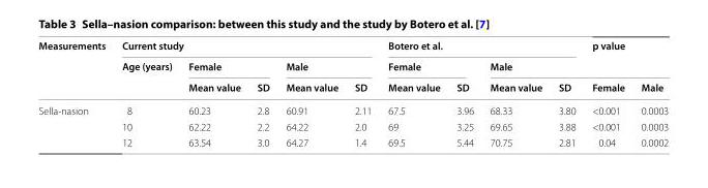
<table><thead><tr><td rowspan="3">Measurements</td><td colspan="5">Current study</td><td colspan="4">Botero et al.</td><td rowspan="2" colspan="2">p value</td></tr><tr><td rowspan="2">Age (years)</td><td colspan="2">Female</td><td colspan="2">Male</td><td colspan="2">Female</td><td colspan="2">Male</td></tr><tr><td>Mean value</td><td>SD</td><td>Mean value</td><td>SD</td><td>Mean value</td><td>SD</td><td>Mean value</td><td>SD</td><td>Female</td><td>Male</td></tr></thead><tbody><tr><td rowspan="3">Sella‑nasion</td><td>8</td><td>60.23</td><td>2.8</td><td>60.91</td><td>2.11</td><td>67.5</td><td>3.96</td><td>68.33</td><td>3.80</td><td>&lt;0.001</td><td>0.0003</td></tr><tr><td>10</td><td>62.22</td><td>2.2</td><td>64.22</td><td>2.0</td><td>69</td><td>3.25</td><td>69.65</td><td>3.88</td><td>&lt;0.001</td><td>0.0003</td></tr><tr><td>12</td><td>63.54</td><td>3.0</td><td>64.27</td><td>1.4</td><td>69.5</td><td>5.44</td><td>70.75</td><td>2.81</td><td>0.04</td><td>0.0002</td></tr></tbody></table>